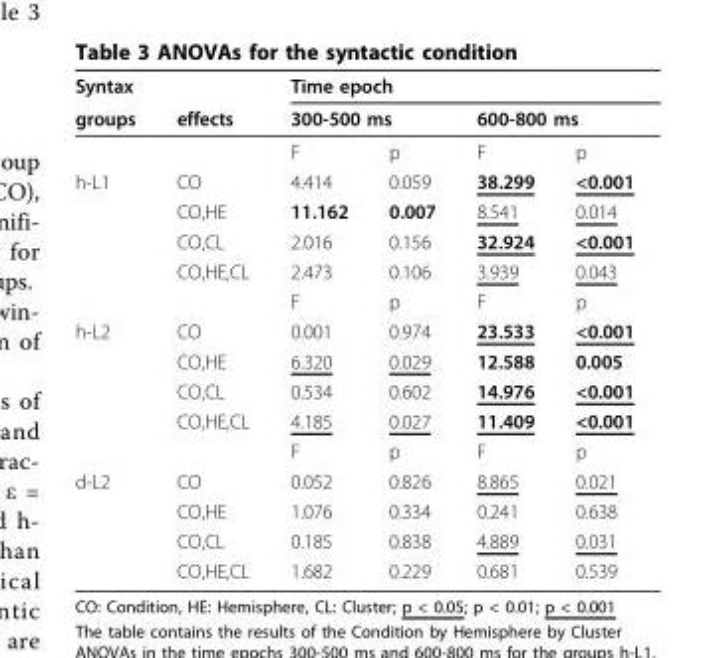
<table><thead><tr><td rowspan="2">Syntax groups</td><td rowspan="2">effects</td><td colspan="4">Time epoch</td></tr><tr><td colspan="2">300-500 ms</td><td colspan="2">600-800 ms</td></tr><tr><td colspan="2"></td><td>F</td><td>p</td><td>F</td><td>p</td></tr></thead><tbody><tr><td rowspan="4">h-L1</td><td>CO</td><td>4.414</td><td>0.059</td><td>38.299</td><td>&lt;0.001</td></tr><tr><td>CO,HE</td><td>11.162</td><td>0.007</td><td>8.541</td><td>0.014</td></tr><tr><td>CO,CL</td><td>2.016</td><td>0.156</td><td>32.924</td><td>&lt;0.001</td></tr><tr><td>CO,HE,CL</td><td>2.473</td><td>0.106</td><td>3.939</td><td>0.043</td></tr><tr><td colspan="2"></td><td>F</td><td>p</td><td>F</td><td>p</td></tr><tr><td rowspan="4">h-L2</td><td>CO</td><td>0.001</td><td>0.974</td><td>23.533</td><td>&lt;0.001</td></tr><tr><td>CO,HE</td><td>6.320</td><td>0.029</td><td>12.588</td><td>0.005</td></tr><tr><td>CO,CL</td><td>0.534</td><td>0.602</td><td>14.976</td><td>&lt;0.001</td></tr><tr><td>CO,HE,CL</td><td>4.185</td><td>0.027</td><td>11.409</td><td>&lt;0.001</td></tr><tr><td colspan="2"></td><td>F</td><td>p</td><td>F</td><td>p</td></tr><tr><td rowspan="4">d-L2</td><td>CO</td><td>0.052</td><td>0.826</td><td>8.865</td><td>0.021</td></tr><tr><td>CO,HE</td><td>1.076</td><td>0.334</td><td>0.241</td><td>0.638</td></tr><tr><td>CO,CL</td><td>0.185</td><td>0.838</td><td>4.889</td><td>0.031</td></tr><tr><td>CO,HE,CL</td><td>1.682</td><td>0.229</td><td>0.681</td><td>0.539</td></tr></tbody></table>